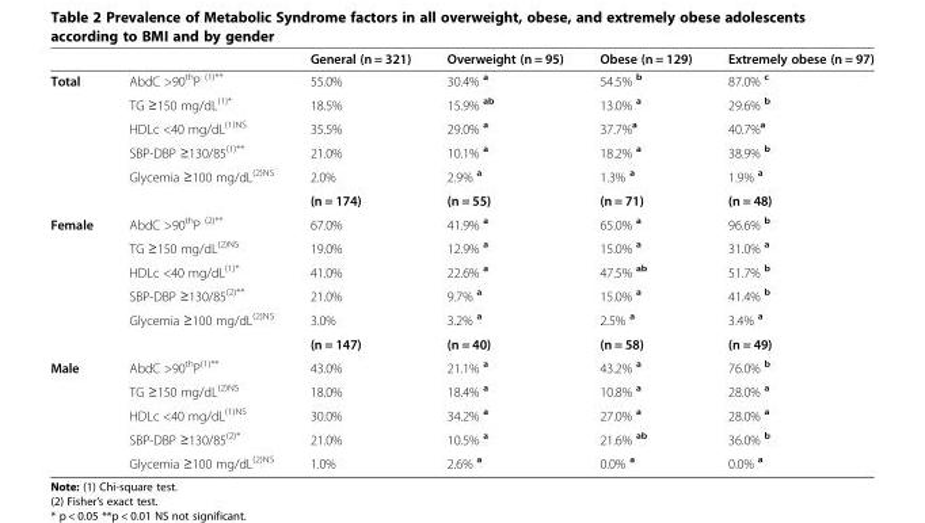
<table><thead><tr><td></td><td></td><td>General (n = 321)</td><td>Overweight (n = 95)</td><td>Obese (n = 129)</td><td>Extremely obese (n = 97)</td></tr></thead><tbody><tr><td rowspan="6">Total</td><td>AbdC &gt;90<sup>th</sup>P <sup>(1)**</sup></td><td>55.0%</td><td>30.4% <sup>a</sup></td><td>54.5% <sup>b</sup></td><td>87.0% <sup>c</sup></td></tr><tr><td>TG ≥150 mg/dL<sup>(1)*</sup></td><td>18.5%</td><td>15.9% <sup>ab</sup></td><td>13.0% <sup>a</sup></td><td>29.6% <sup>b</sup></td></tr><tr><td>HDLc &lt;40 mg/dL<sup>(1)NS</sup></td><td>35.5%</td><td>29.0% <sup>a</sup></td><td>37.7%<sup>a</sup></td><td>40.7%<sup>a</sup></td></tr><tr><td>SBP-DBP ≥130/85<sup>(1)**</sup></td><td>21.0%</td><td>10.1% <sup>a</sup></td><td>18.2% <sup>a</sup></td><td>38.9% <sup>b</sup></td></tr><tr><td>Glycemia ≥100 mg/dL<sup>(2)NS</sup></td><td>2.0%</td><td>2.9% <sup>a</sup></td><td>1.3% <sup>a</sup></td><td>1.9% <sup>a</sup></td></tr><tr><td></td><td>(n = 174)</td><td>(n = 55)</td><td>(n = 71)</td><td>(n = 48)</td></tr><tr><td rowspan="6">Female</td><td>AbdC &gt;90<sup>th</sup>P <sup>(2)**</sup></td><td>67.0%</td><td>41.9% <sup>a</sup></td><td>65.0% <sup>a</sup></td><td>96.6% <sup>b</sup></td></tr><tr><td>TG ≥150 mg/dL<sup>(2)NS</sup></td><td>19.0%</td><td>12.9% <sup>a</sup></td><td>15.0% <sup>a</sup></td><td>31.0% <sup>a</sup></td></tr><tr><td>HDLc &lt;40 mg/dL<sup>(1)*</sup></td><td>41.0%</td><td>22.6% <sup>a</sup></td><td>47.5% <sup>ab</sup></td><td>51.7% <sup>b</sup></td></tr><tr><td>SBP-DBP ≥130/85<sup>(2)**</sup></td><td>21.0%</td><td>9.7% <sup>a</sup></td><td>15.0% <sup>a</sup></td><td>41.4% <sup>b</sup></td></tr><tr><td>Glycemia ≥100 mg/dL<sup>(2)NS</sup></td><td>3.0%</td><td>3.2% <sup>a</sup></td><td>2.5% <sup>a</sup></td><td>3.4% <sup>a</sup></td></tr><tr><td></td><td>(n = 147)</td><td>(n = 40)</td><td>(n = 58)</td><td>(n = 49)</td></tr><tr><td rowspan="5">Male</td><td>AbdC &gt;90<sup>th</sup>P<sup>(1)**</sup></td><td>43.0%</td><td>21.1% <sup>a</sup></td><td>43.2% <sup>a</sup></td><td>76.0% <sup>b</sup></td></tr><tr><td>TG ≥150 mg/dL<sup>(2)NS</sup></td><td>18.0%</td><td>18.4% <sup>a</sup></td><td>10.8% <sup>a</sup></td><td>28.0% <sup>a</sup></td></tr><tr><td>HDLc &lt;40 mg/dL<sup>(1)NS</sup></td><td>30.0%</td><td>34.2% <sup>a</sup></td><td>27.0% <sup>a</sup></td><td>28.0% <sup>a</sup></td></tr><tr><td>SBP-DBP ≥130/85<sup>(2)*</sup></td><td>21.0%</td><td>10.5% <sup>a</sup></td><td>21.6% <sup>ab</sup></td><td>36.0% <sup>b</sup></td></tr><tr><td>Glycemia ≥100 mg/dL<sup>(2)NS</sup></td><td>1.0%</td><td>2.6% <sup>a</sup></td><td>0.0% <sup>a</sup></td><td>0.0% <sup>a</sup></td></tr></tbody></table>